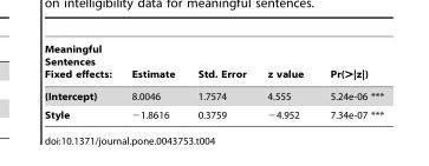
<table><thead><tr><td>Meaningful Sentences Fixed effects:</td><td>Estimate</td><td>Std. Error</td><td>z value</td><td>Pr(&gt;|z|)</td></tr></thead><tbody><tr><td>(Intercept)</td><td>8.0046</td><td>1.7574</td><td>4.555</td><td>5.24e-06 ***</td></tr><tr><td>Style</td><td>−1.8616</td><td>0.3759</td><td>−4.952</td><td>7.34e-07 ***</td></tr></tbody></table>